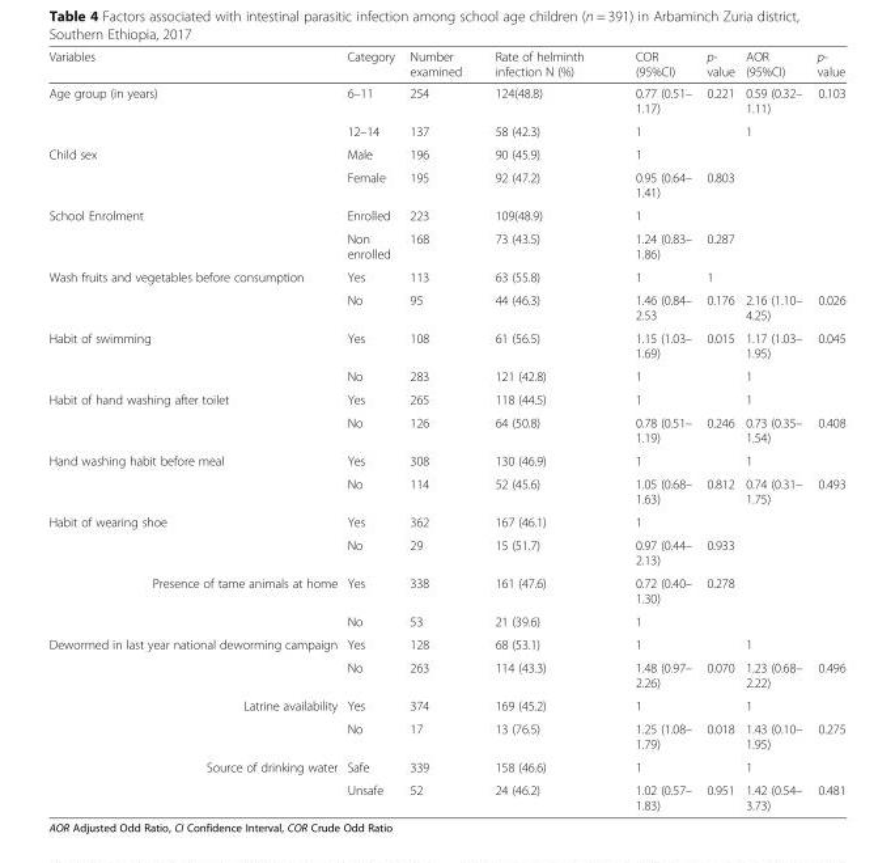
<table><thead><tr><td>Variables</td><td>Category</td><td>Number examined</td><td>Rate of helminth infection N (%)</td><td>COR (95%CI)</td><td>p- value</td><td>AOR (95%CI)</td><td>p- value</td></tr></thead><tbody><tr><td rowspan="2">Age group (in years)</td><td>6–11</td><td>254</td><td>124(48.8)</td><td>0.77 (0.51– 1.17)</td><td>0.221</td><td>0.59 (0.32– 1.11)</td><td>0.103</td></tr><tr><td>12–14</td><td>137</td><td>58 (42.3)</td><td>1</td><td></td><td>1</td><td></td></tr><tr><td rowspan="2">Child sex</td><td>Male</td><td>196</td><td>90 (45.9)</td><td>1</td><td></td><td></td><td></td></tr><tr><td>Female</td><td>195</td><td>92 (47.2)</td><td>0.95 (0.64– 1.41)</td><td>0.803</td><td></td><td></td></tr><tr><td rowspan="2">School Enrolment</td><td>Enrolled</td><td>223</td><td>109(48.9)</td><td>1</td><td></td><td></td><td></td></tr><tr><td>Non enrolled</td><td>168</td><td>73 (43.5)</td><td>1.24 (0.83– 1.86)</td><td>0.287</td><td></td><td></td></tr><tr><td rowspan="2">Wash fruits and vegetables before consumption</td><td>Yes</td><td>113</td><td>63 (55.8)</td><td>1</td><td>1</td><td></td><td></td></tr><tr><td>No</td><td>95</td><td>44 (46.3)</td><td>1.46 (0.84– 2.53</td><td>0.176</td><td>2.16 (1.10– 4.25)</td><td>0.026</td></tr><tr><td rowspan="2">Habit of swimming</td><td>Yes</td><td>108</td><td>61 (56.5)</td><td>1.15 (1.03– 1.69)</td><td>0.015</td><td>1.17 (1.03– 1.95)</td><td>0.045</td></tr><tr><td>No</td><td>283</td><td>121 (42.8)</td><td>1</td><td></td><td>1</td><td></td></tr><tr><td rowspan="2">Habit of hand washing after toilet</td><td>Yes</td><td>265</td><td>118 (44.5)</td><td>1</td><td></td><td>1</td><td></td></tr><tr><td>No</td><td>126</td><td>64 (50.8)</td><td>0.78 (0.51– 1.19)</td><td>0.246</td><td>0.73 (0.35– 1.54)</td><td>0.408</td></tr><tr><td rowspan="2">Hand washing habit before meal</td><td>Yes</td><td>308</td><td>130 (46.9)</td><td>1</td><td></td><td>1</td><td></td></tr><tr><td>No</td><td>114</td><td>52 (45.6)</td><td>1.05 (0.68– 1.63)</td><td>0.812</td><td>0.74 (0.31– 1.75)</td><td>0.493</td></tr><tr><td rowspan="2">Habit of wearing shoe</td><td>Yes</td><td>362</td><td>167 (46.1)</td><td>1</td><td></td><td></td><td></td></tr><tr><td>No</td><td>29</td><td>15 (51.7)</td><td>0.97 (0.44– 2.13)</td><td>0.933</td><td></td><td></td></tr><tr><td rowspan="2">Presence of tame animals at home</td><td>Yes</td><td>338</td><td>161 (47.6)</td><td>0.72 (0.40– 1.30)</td><td>0.278</td><td></td><td></td></tr><tr><td>No</td><td>53</td><td>21 (39.6)</td><td>1</td><td></td><td></td><td></td></tr><tr><td rowspan="2">Dewormed in last year national deworming campaign</td><td>Yes</td><td>128</td><td>68 (53.1)</td><td>1</td><td></td><td>1</td><td></td></tr><tr><td>No</td><td>263</td><td>114 (43.3)</td><td>1.48 (0.97– 2.26)</td><td>0.070</td><td>1.23 (0.68– 2.22)</td><td>0.496</td></tr><tr><td rowspan="2">Latrine availability</td><td>Yes</td><td>374</td><td>169 (45.2)</td><td>1</td><td></td><td>1</td><td></td></tr><tr><td>No</td><td>17</td><td>13 (76.5)</td><td>1.25 (1.08– 1.79)</td><td>0.018</td><td>1.43 (0.10– 1.95)</td><td>0.275</td></tr><tr><td rowspan="2">Source of drinking water</td><td>Safe</td><td>339</td><td>158 (46.6)</td><td>1</td><td></td><td>1</td><td></td></tr><tr><td>Unsafe</td><td>52</td><td>24 (46.2)</td><td>1.02 (0.57– 1.83)</td><td>0.951</td><td>1.42 (0.54– 3.73)</td><td>0.481</td></tr></tbody></table>